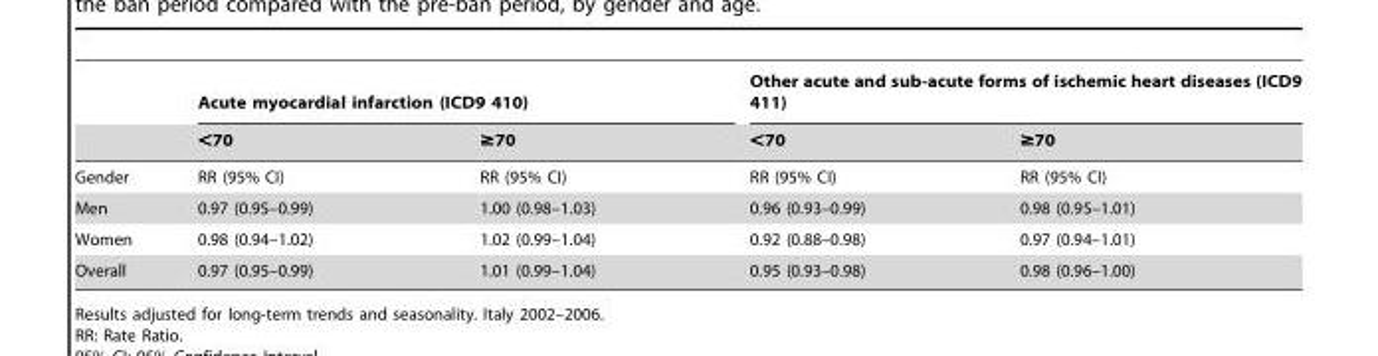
<table><thead><tr><td rowspan="2"></td><td colspan="2">Acute myocardial infarction (ICD9 410)</td><td colspan="2">Other acute and sub-acute forms of ischemic heart diseases (ICD9 411)</td></tr><tr><td>&lt;70</td><td>≥70</td><td>&lt;70</td><td>≥70</td></tr></thead><tbody><tr><td>Gender</td><td>RR (95% CI)</td><td>RR (95% CI)</td><td>RR (95% CI)</td><td>RR (95% CI)</td></tr><tr><td>Men</td><td>0.97 (0.95–0.99)</td><td>1.00 (0.98–1.03)</td><td>0.96 (0.93–0.99)</td><td>0.98 (0.95–1.01)</td></tr><tr><td>Women</td><td>0.98 (0.94–1.02)</td><td>1.02 (0.99–1.04)</td><td>0.92 (0.88–0.98)</td><td>0.97 (0.94–1.01)</td></tr><tr><td>Overall</td><td>0.97 (0.95–0.99)</td><td>1.01 (0.99–1.04)</td><td>0.95 (0.93–0.98)</td><td>0.98 (0.96–1.00)</td></tr></tbody></table>